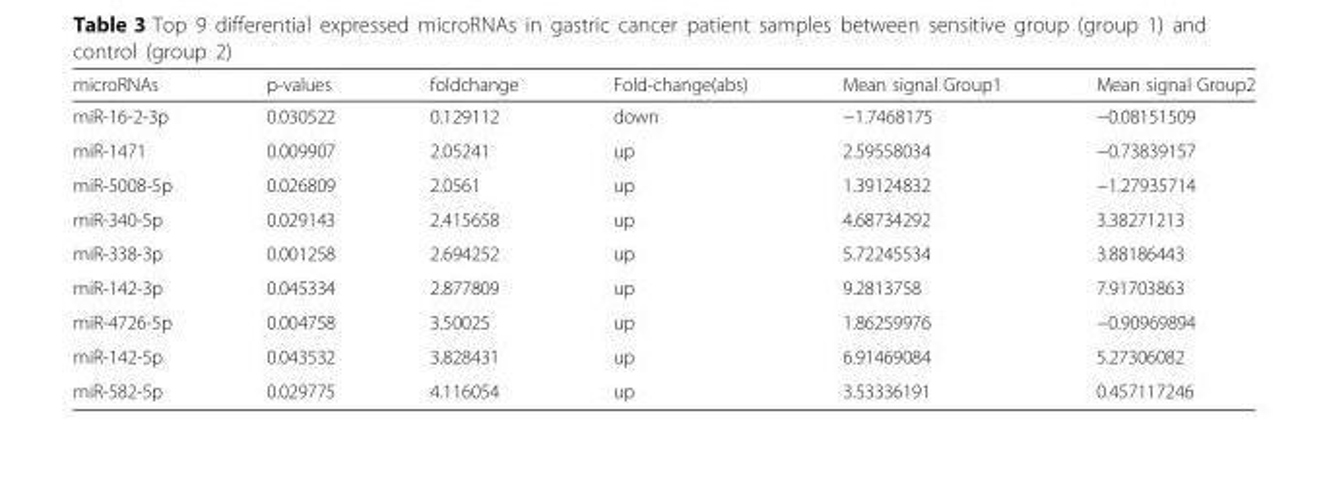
<table><thead><tr><td>microRNAs</td><td>p-values</td><td>foldchange</td><td>Fold-change(abs)</td><td>Mean signal Group1</td><td>Mean signal Group2</td></tr></thead><tbody><tr><td>miR-16-2-3p</td><td>0.030522</td><td>0.129112</td><td>down</td><td>−1.7468175</td><td>−0.08151509</td></tr><tr><td>miR-1471</td><td>0.009907</td><td>2.05241</td><td>up</td><td>2.59558034</td><td>−0.73839157</td></tr><tr><td>miR-5008-5p</td><td>0.026809</td><td>2.0561</td><td>up</td><td>1.39124832</td><td>−1.27935714</td></tr><tr><td>miR-340-5p</td><td>0.029143</td><td>2.415658</td><td>up</td><td>4.68734292</td><td>3.38271213</td></tr><tr><td>miR-338-3p</td><td>0.001258</td><td>2.694252</td><td>up</td><td>5.72245534</td><td>3.88186443</td></tr><tr><td>miR-142-3p</td><td>0.045334</td><td>2.877809</td><td>up</td><td>9.2813758</td><td>7.91703863</td></tr><tr><td>miR-4726-5p</td><td>0.004758</td><td>3.50025</td><td>up</td><td>1.86259976</td><td>−0.90969894</td></tr><tr><td>miR-142-5p</td><td>0.043532</td><td>3.828431</td><td>up</td><td>6.91469084</td><td>5.27306082</td></tr><tr><td>miR-582-5p</td><td>0.029775</td><td>4.116054</td><td>up</td><td>3.53336191</td><td>0.457117246</td></tr></tbody></table>